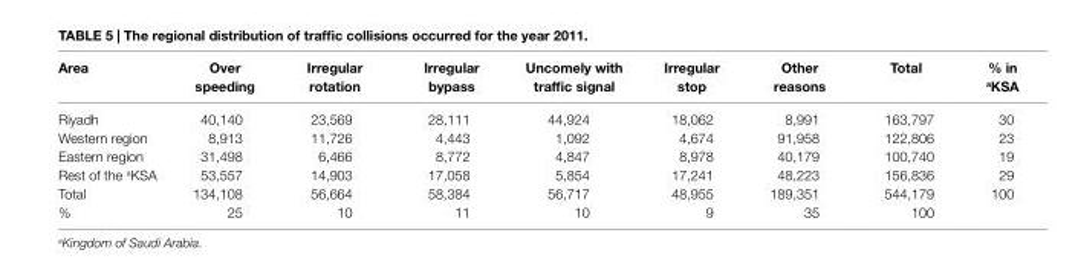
<table><thead><tr><td>area</td><td>Over speeding</td><td>irregular rotation</td><td>irregular bypass</td><td>Uncomely with traffic signal</td><td>irregular stop</td><td>Other reasons</td><td>Total</td><td>% in <sup>a</sup>Ksa</td></tr></thead><tbody><tr><td>Riyadh</td><td>40,140</td><td>23,569</td><td>28,111</td><td>44,924</td><td>18,062</td><td>8,991</td><td>163,797</td><td>30</td></tr><tr><td>Western region</td><td>8,913</td><td>11,726</td><td>4,443</td><td>1,092</td><td>4,674</td><td>91,958</td><td>122,806</td><td>23</td></tr><tr><td>Eastern region</td><td>31,498</td><td>6,466</td><td>8,772</td><td>4,847</td><td>8,978</td><td>40,179</td><td>100,740</td><td>19</td></tr><tr><td>Rest of the <sup>a</sup>KSA</td><td>53,557</td><td>14,903</td><td>17,058</td><td>5,854</td><td>17,241</td><td>48,223</td><td>156,836</td><td>29</td></tr><tr><td>Total</td><td>134,108</td><td>56,664</td><td>58,384</td><td>56,717</td><td>48,955</td><td>189,351</td><td>544,179</td><td>100</td></tr><tr><td>%</td><td>25</td><td>10</td><td>11</td><td>10</td><td>9</td><td>35</td><td>100</td><td></td></tr></tbody></table>